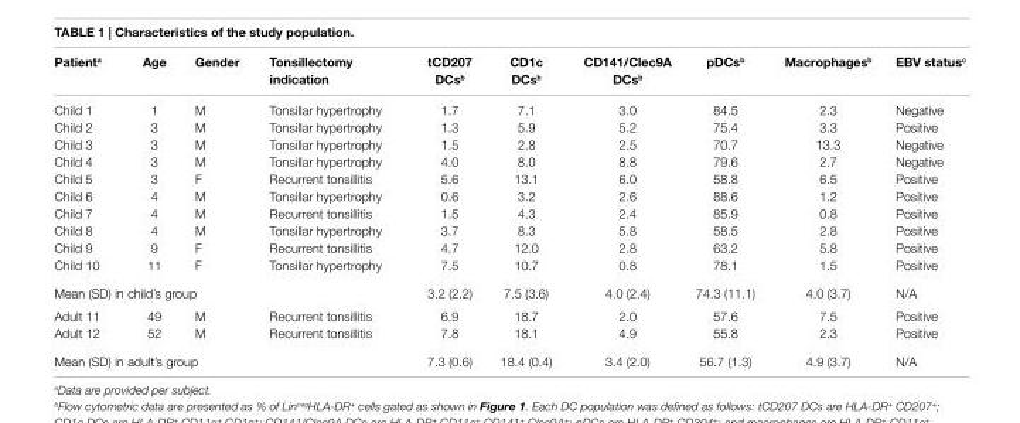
<table><thead><tr><td>Patient<sup>a</sup></td><td>age</td><td>gender</td><td>Tonsillectomy indication</td><td>tcD207 Dcs<sup>b</sup></td><td>cD1c Dcs<sup>b</sup></td><td>cD141/clec9a Dcs<sup>b</sup></td><td>pDcs<sup>b</sup></td><td>Macrophages<sup>b</sup></td><td>eBV status<sup>c</sup></td></tr></thead><tbody><tr><td>Child 1</td><td>1</td><td>M</td><td>Tonsillar hypertrophy</td><td>1.7</td><td>7.1</td><td>3.0</td><td>84.5</td><td>2.3</td><td>Negative</td></tr><tr><td>Child 2</td><td>3</td><td>M</td><td>Tonsillar hypertrophy</td><td>1.3</td><td>5.9</td><td>5.2</td><td>75.4</td><td>3.3</td><td>Positive</td></tr><tr><td>Child 3</td><td>3</td><td>M</td><td>Tonsillar hypertrophy</td><td>1.5</td><td>2.8</td><td>2.5</td><td>70.7</td><td>13.3</td><td>Negative</td></tr><tr><td>Child 4</td><td>3</td><td>M</td><td>Tonsillar hypertrophy</td><td>4.0</td><td>8.0</td><td>8.8</td><td>79.6</td><td>2.7</td><td>Negative</td></tr><tr><td>Child 5</td><td>3</td><td>F</td><td>Recurrent tonsillitis</td><td>5.6</td><td>13.1</td><td>6.0</td><td>58.8</td><td>6.5</td><td>Positive</td></tr><tr><td>Child 6</td><td>4</td><td>M</td><td>Tonsillar hypertrophy</td><td>0.6</td><td>3.2</td><td>2.6</td><td>88.6</td><td>1.2</td><td>Positive</td></tr><tr><td>Child 7</td><td>4</td><td>M</td><td>Recurrent tonsillitis</td><td>1.5</td><td>4.3</td><td>2.4</td><td>85.9</td><td>0.8</td><td>Positive</td></tr><tr><td>Child 8</td><td>4</td><td>M</td><td>Tonsillar hypertrophy</td><td>3.7</td><td>8.3</td><td>5.8</td><td>58.5</td><td>2.8</td><td>Positive</td></tr><tr><td>Child 9</td><td>9</td><td>F</td><td>Recurrent tonsillitis</td><td>4.7</td><td>12.0</td><td>2.8</td><td>63.2</td><td>5.8</td><td>Positive</td></tr><tr><td>Child 10</td><td>11</td><td>F</td><td>Tonsillar hypertrophy</td><td>7.5</td><td>10.7</td><td>0.8</td><td>78.1</td><td>1.5</td><td>Positive</td></tr><tr><td colspan="4">Mean (SD) in child’s group</td><td>3.2 (2.2)</td><td>7.5 (3.6)</td><td>4.0 (2.4)</td><td>74.3 (11.1)</td><td>4.0 (3.7)</td><td>N/A</td></tr><tr><td>Adult 11</td><td>49</td><td>M</td><td>Recurrent tonsillitis</td><td>6.9</td><td>18.7</td><td>2.0</td><td>57.6</td><td>7.5</td><td>Positive</td></tr><tr><td>Adult 12</td><td>52</td><td>M</td><td>Recurrent tonsillitis</td><td>7.8</td><td>18.1</td><td>4.9</td><td>55.8</td><td>2.3</td><td>Positive</td></tr><tr><td colspan="4">Mean (SD) in adult’s group</td><td>7.3 (0.6)</td><td>18.4 (0.4)</td><td>3.4 (2.0)</td><td>56.7 (1.3)</td><td>4.9 (3.7)</td><td>N/A</td></tr></tbody></table>